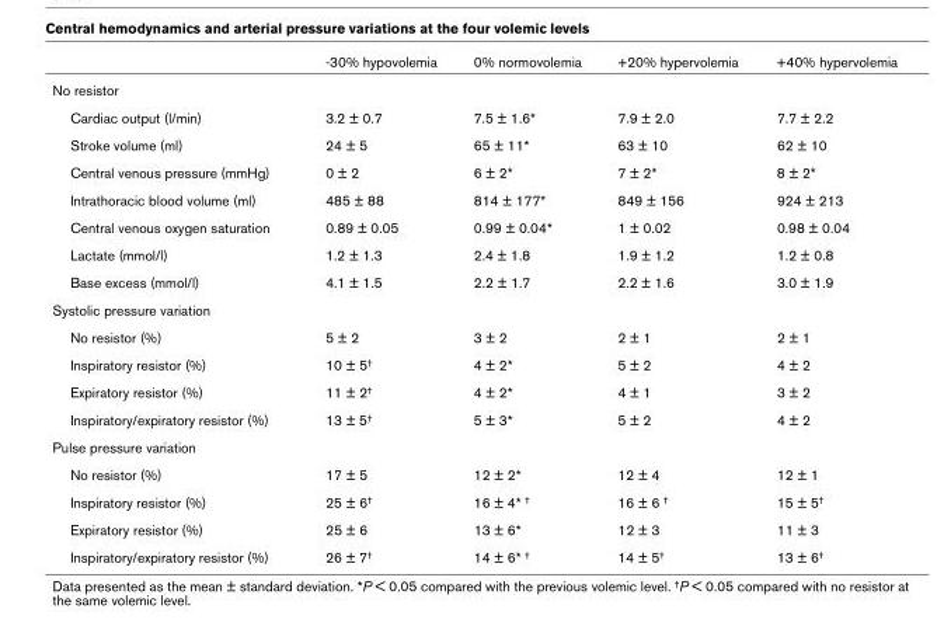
<table><thead><tr><td></td><td>-30% hypovolemia</td><td>0% normovolemia</td><td>+20% hypervolemia</td><td>+40% hypervolemia</td></tr></thead><tbody><tr><td colspan="5">No resistor</td></tr><tr><td>Cardiac output (l/min)</td><td>3.2 ± 0.7</td><td>7.5 ± 1.6*</td><td>7.9 ± 2.0</td><td>7.7 ± 2.2</td></tr><tr><td>Stroke volume (ml)</td><td>24 ± 5</td><td>65 ± 11*</td><td>63 ± 10</td><td>62 ± 10</td></tr><tr><td>Central venous pressure (mmHg)</td><td>0 ± 2</td><td>6 ± 2*</td><td>7 ± 2*</td><td>8 ± 2*</td></tr><tr><td>Intrathoracic blood volume (ml)</td><td>485 ± 88</td><td>814 ± 177*</td><td>849 ± 156</td><td>924 ± 213</td></tr><tr><td>Central venous oxygen saturation</td><td>0.89 ± 0.05</td><td>0.99 ± 0.04*</td><td>1 ± 0.02</td><td>0.98 ± 0.04</td></tr><tr><td>Lactate (mmol/l)</td><td>1.2 ± 1.3</td><td>2.4 ± 1.8</td><td>1.9 ± 1.2</td><td>1.2 ± 0.8</td></tr><tr><td>Base excess (mmol/l)</td><td>4.1 ± 1.5</td><td>2.2 ± 1.7</td><td>2.2 ± 1.6</td><td>3.0 ± 1.9</td></tr><tr><td colspan="5">Systolic pressure variation</td></tr><tr><td>No resistor (%)</td><td>5 ± 2</td><td>3 ± 2</td><td>2 ± 1</td><td>2 ± 1</td></tr><tr><td>Inspiratory resistor (%)</td><td>10 ± 5<sup>†</sup></td><td>4 ± 2*</td><td>5 ± 2</td><td>4 ± 2</td></tr><tr><td>Expiratory resistor (%)</td><td>11 ± 2<sup>†</sup></td><td>4 ± 2*</td><td>4 ± 1</td><td>3 ± 2</td></tr><tr><td>Inspiratory/expiratory resistor (%)</td><td>13 ± 5<sup>†</sup></td><td>5 ± 3*</td><td>5 ± 2</td><td>4 ± 2</td></tr><tr><td colspan="5">Pulse pressure variation</td></tr><tr><td>No resistor (%)</td><td>17 ± 5</td><td>12 ± 2*</td><td>12 ± 4</td><td>12 ± 1</td></tr><tr><td>Inspiratory resistor (%)</td><td>25 ± 6<sup>†</sup></td><td>16 ± 4* <sup>†</sup></td><td>16 ± 6 <sup>†</sup></td><td>15 ± 5<sup>†</sup></td></tr><tr><td>Expiratory resistor (%)</td><td>25 ± 6</td><td>13 ± 6*</td><td>12 ± 3</td><td>11 ± 3</td></tr><tr><td>Inspiratory/expiratory resistor (%)</td><td>26 ± 7<sup>†</sup></td><td>14 ± 6* <sup>†</sup></td><td>14 ± 5<sup>†</sup></td><td>13 ± 6<sup>†</sup></td></tr></tbody></table>